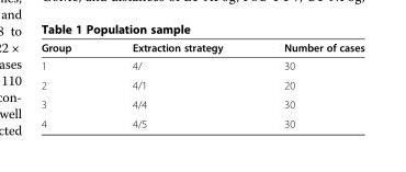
<table><thead><tr><td>Group</td><td>Extraction strategy</td><td>Number of cases</td></tr></thead><tbody><tr><td>1</td><td>4/</td><td>30</td></tr><tr><td>2</td><td>4/1</td><td>20</td></tr><tr><td>3</td><td>4/4</td><td>30</td></tr><tr><td>4</td><td>4/5</td><td>30</td></tr></tbody></table>